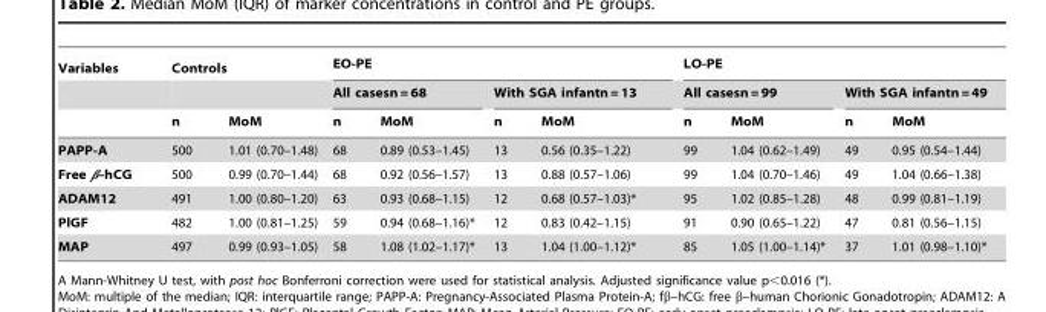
<table><thead><tr><td rowspan="3">Variables</td><td colspan="2">Controls</td><td colspan="4">EO-PE</td><td colspan="4">LO-PE</td></tr><tr><td rowspan="2">n</td><td rowspan="2">MoM</td><td colspan="2">All casesn = 68</td><td colspan="2">With SGA infantn = 13</td><td colspan="2">All casesn = 99</td><td colspan="2">With SGA infantn = 49</td></tr><tr><td>n</td><td>MoM</td><td>n</td><td>MoM</td><td>n</td><td>MoM</td><td>n</td><td>MoM</td></tr></thead><tbody><tr><td>PAPP-A</td><td>500</td><td>1.01 (0.70–1.48)</td><td>68</td><td>0.89 (0.53–1.45)</td><td>13</td><td>0.56 (0.35–1.22)</td><td>99</td><td>1.04 (0.62–1.49)</td><td>49</td><td>0.95 (0.54–1.44)</td></tr><tr><td>Free β–hCG</td><td>500</td><td>0.99 (0.70–1.44)</td><td>68</td><td>0.92 (0.56–1.57)</td><td>13</td><td>0.88 (0.57–1.06)</td><td>99</td><td>1.04 (0.70–1.46)</td><td>49</td><td>1.04 (0.66–1.38)</td></tr><tr><td>ADAM12</td><td>491</td><td>1.00 (0.80–1.20)</td><td>63</td><td>0.93 (0.68–1.15)</td><td>12</td><td>0.68 (0.57–1.03)*</td><td>95</td><td>1.02 (0.85–1.28)</td><td>48</td><td>0.99 (0.81–1.19)</td></tr><tr><td>PlGF</td><td>482</td><td>1.00 (0.81–1.25)</td><td>59</td><td>0.94 (0.68–1.16)*</td><td>12</td><td>0.83 (0.42–1.15)</td><td>91</td><td>0.90 (0.65–1.22)</td><td>47</td><td>0.81 (0.56–1.15)</td></tr><tr><td>MAP</td><td>497</td><td>0.99 (0.93–1.05)</td><td>58</td><td>1.08 (1.02–1.17)*</td><td>13</td><td>1.04 (1.00–1.12)*</td><td>85</td><td>1.05 (1.00–1.14)*</td><td>37</td><td>1.01 (0.98–1.10)*</td></tr></tbody></table>